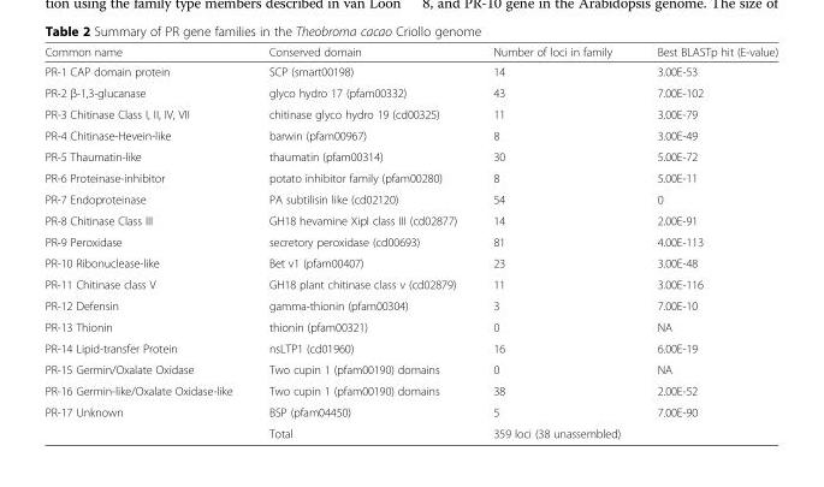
<table><thead><tr><td>Common name</td><td>Conserved domain</td><td>Number of loci in family</td><td>Best BLASTp hit (E-value)</td></tr></thead><tbody><tr><td>PR-1 CAP domain protein</td><td>SCP (smart00198)</td><td>14</td><td>3.00E-53</td></tr><tr><td>PR-2 β-1,3-glucanase</td><td>glyco hydro 17 (pfam00332)</td><td>43</td><td>7.00E-102</td></tr><tr><td>PR-3 Chitinase Class I, II, IV, VII</td><td>chitinase glyco hydro 19 (cd00325)</td><td>11</td><td>3.00E-79</td></tr><tr><td>PR-4 Chitinase-Hevein-like</td><td>barwin (pfam00967)</td><td>8</td><td>3.00E-49</td></tr><tr><td>PR-5 Thaumatin-like</td><td>thaumatin (pfam00314)</td><td>30</td><td>5.00E-72</td></tr><tr><td>PR-6 Proteinase-inhibitor</td><td>potato inhibitor family (pfam00280)</td><td>8</td><td>5.00E-11</td></tr><tr><td>PR-7 Endoproteinase</td><td>PA subtilisin like (cd02120)</td><td>54</td><td>0</td></tr><tr><td>PR-8 Chitinase Class III</td><td>GH18 hevamine XipI class III (cd02877)</td><td>14</td><td>2.00E-91</td></tr><tr><td>PR-9 Peroxidase</td><td>secretory peroxidase (cd00693)</td><td>81</td><td>4.00E-113</td></tr><tr><td>PR-10 Ribonuclease-like</td><td>Bet v1 (pfam00407)</td><td>23</td><td>3.00E-48</td></tr><tr><td>PR-11 Chitinase class V</td><td>GH18 plant chitinase class v (cd02879)</td><td>11</td><td>3.00E-116</td></tr><tr><td>PR-12 Defensin</td><td>gamma-thionin (pfam00304)</td><td>3</td><td>7.00E-10</td></tr><tr><td>PR-13 Thionin</td><td>thionin (pfam00321)</td><td>0</td><td>NA</td></tr><tr><td>PR-14 Lipid-transfer Protein</td><td>nsLTP1 (cd01960)</td><td>16</td><td>6.00E-19</td></tr><tr><td>PR-15 Germin/Oxalate Oxidase</td><td>Two cupin 1 (pfam00190) domains</td><td>0</td><td>NA</td></tr><tr><td>PR-16 Germin-like/Oxalate Oxidase-like</td><td>Two cupin 1 (pfam00190) domains</td><td>38</td><td>2.00E-52</td></tr><tr><td rowspan="2">PR-17 Unknown</td><td>BSP (pfam04450)</td><td>5</td><td>7.00E-90</td></tr><tr><td>Total</td><td>359 loci (38 unassembled)</td><td></td></tr></tbody></table>